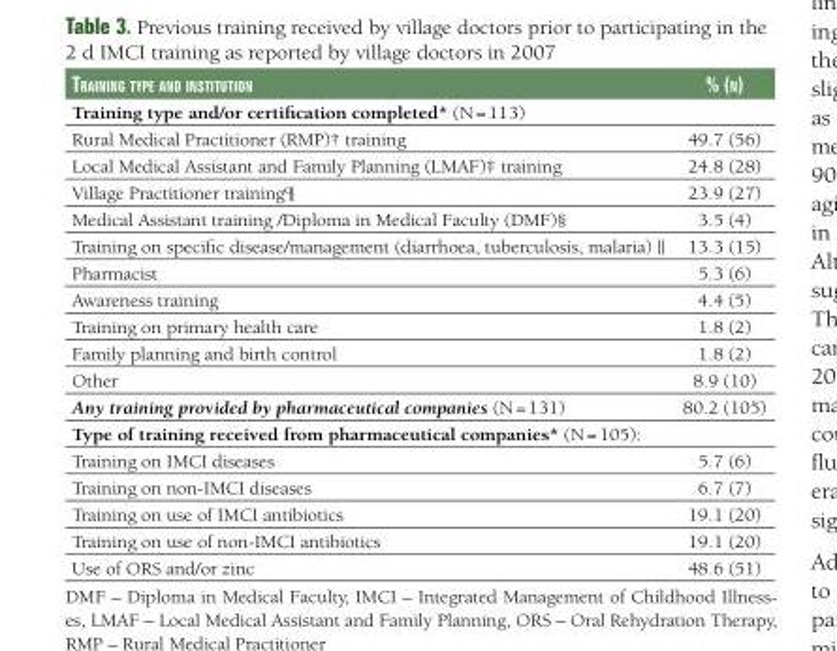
<table><thead><tr><td>training typE and institution</td><td>% (n)</td></tr></thead><tbody><tr><td colspan="2">Training type and/or certification completed* (N = 113)</td></tr><tr><td>Rural Medical Practitioner (RMP)† training</td><td>49.7 (56)</td></tr><tr><td>Local Medical Assistant and Family Planning (LMAF)‡ training</td><td>24.8 (28)</td></tr><tr><td>Village Practitioner training¶</td><td>23.9 (27)</td></tr><tr><td>Medical Assistant training /Diploma in Medical Faculty (DMF)§</td><td>3.5 (4)</td></tr><tr><td>Training on specific disease/management (diarrhoea, tuberculosis, malaria) ||</td><td>13.3 (15)</td></tr><tr><td>Pharmacist</td><td>5.3 (6)</td></tr><tr><td>Awareness training</td><td>4.4 (5)</td></tr><tr><td>Training on primary health care</td><td>1.8 (2)</td></tr><tr><td>Family planning and birth control</td><td>1.8 (2)</td></tr><tr><td>Other</td><td>8.9 (10)</td></tr><tr><td>Any training provided by pharmaceutical companies (N = 131)</td><td>80.2 (105)</td></tr><tr><td colspan="2">Type of training received from pharmaceutical companies* (N = 105):</td></tr><tr><td>Training on IMCI diseases</td><td>5.7 (6)</td></tr><tr><td>Training on non-IMCI diseases</td><td>6.7 (7)</td></tr><tr><td>Training on use of IMCI antibiotics</td><td>19.1 (20)</td></tr><tr><td>Training on use of non-IMCI antibiotics</td><td>19.1 (20)</td></tr><tr><td>Use of ORS and/or zinc</td><td>48.6 (51)</td></tr></tbody></table>